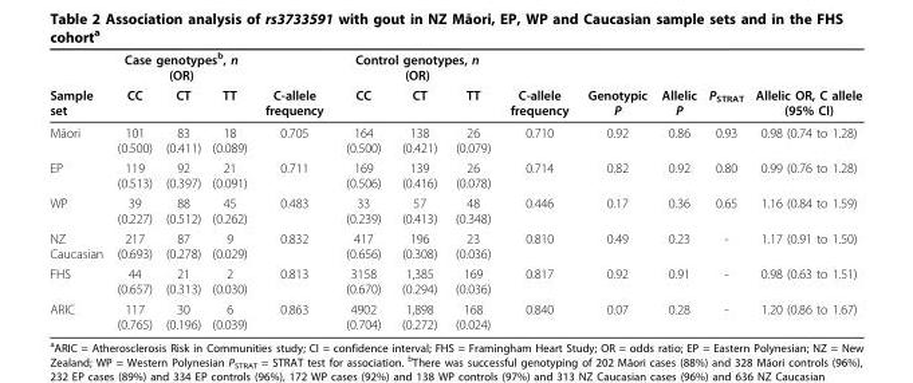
<table><thead><tr><td rowspan="2">Sample set</td><td colspan="3">Case genotypes<sup>b</sup>, n (OR)</td><td rowspan="2">C-allele frequency</td><td colspan="3">Control genotypes, n (OR)</td><td rowspan="2">C-allele frequency</td><td rowspan="2">Genotypic P</td><td rowspan="2">Allelic P</td><td rowspan="2">P<sub>STRAT</sub></td><td rowspan="2">Allelic OR, C allele (95% CI)</td></tr><tr><td>CC</td><td>CT</td><td>TT</td><td>CC</td><td>CT</td><td>TT</td></tr></thead><tbody><tr><td>Māori</td><td>101 (0.500)</td><td>83 (0.411)</td><td>18 (0.089)</td><td>0.705</td><td>164 (0.500)</td><td>138 (0.421)</td><td>26 (0.079)</td><td>0.710</td><td>0.92</td><td>0.86</td><td>0.93</td><td>0.98 (0.74 to 1.28)</td></tr><tr><td>EP</td><td>119 (0.513)</td><td>92 (0.397)</td><td>21 (0.091)</td><td>0.711</td><td>169 (0.506)</td><td>139 (0.416)</td><td>26 (0.078)</td><td>0.714</td><td>0.82</td><td>0.92</td><td>0.80</td><td>0.99 (0.76 to 1.28)</td></tr><tr><td>WP</td><td>39 (0.227)</td><td>88 (0.512)</td><td>45 (0.262)</td><td>0.483</td><td>33 (0.239)</td><td>57 (0.413)</td><td>48 (0.348)</td><td>0.446</td><td>0.17</td><td>0.36</td><td>0.65</td><td>1.16 (0.84 to 1.59)</td></tr><tr><td>NZ Caucasian</td><td>217 (0.693)</td><td>87 (0.278)</td><td>9 (0.029)</td><td>0.832</td><td>417 (0.656)</td><td>196 (0.308)</td><td>23 (0.036)</td><td>0.810</td><td>0.49</td><td>0.23</td><td>-</td><td>1.17 (0.91 to 1.50)</td></tr><tr><td>FHS</td><td>44 (0.657)</td><td>21 (0.313)</td><td>2 (0.030)</td><td>0.813</td><td>3158 (0.670)</td><td>1,385 (0.294)</td><td>169 (0.036)</td><td>0.817</td><td>0.92</td><td>0.91</td><td>-</td><td>0.98 (0.63 to 1.51)</td></tr><tr><td>ARIC</td><td>117 (0.765)</td><td>30 (0.196)</td><td>6 (0.039)</td><td>0.863</td><td>4902 (0.704)</td><td>1,898 (0.272)</td><td>168 (0.024)</td><td>0.840</td><td>0.07</td><td>0.28</td><td>-</td><td>1.20 (0.86 to 1.67)</td></tr></tbody></table>